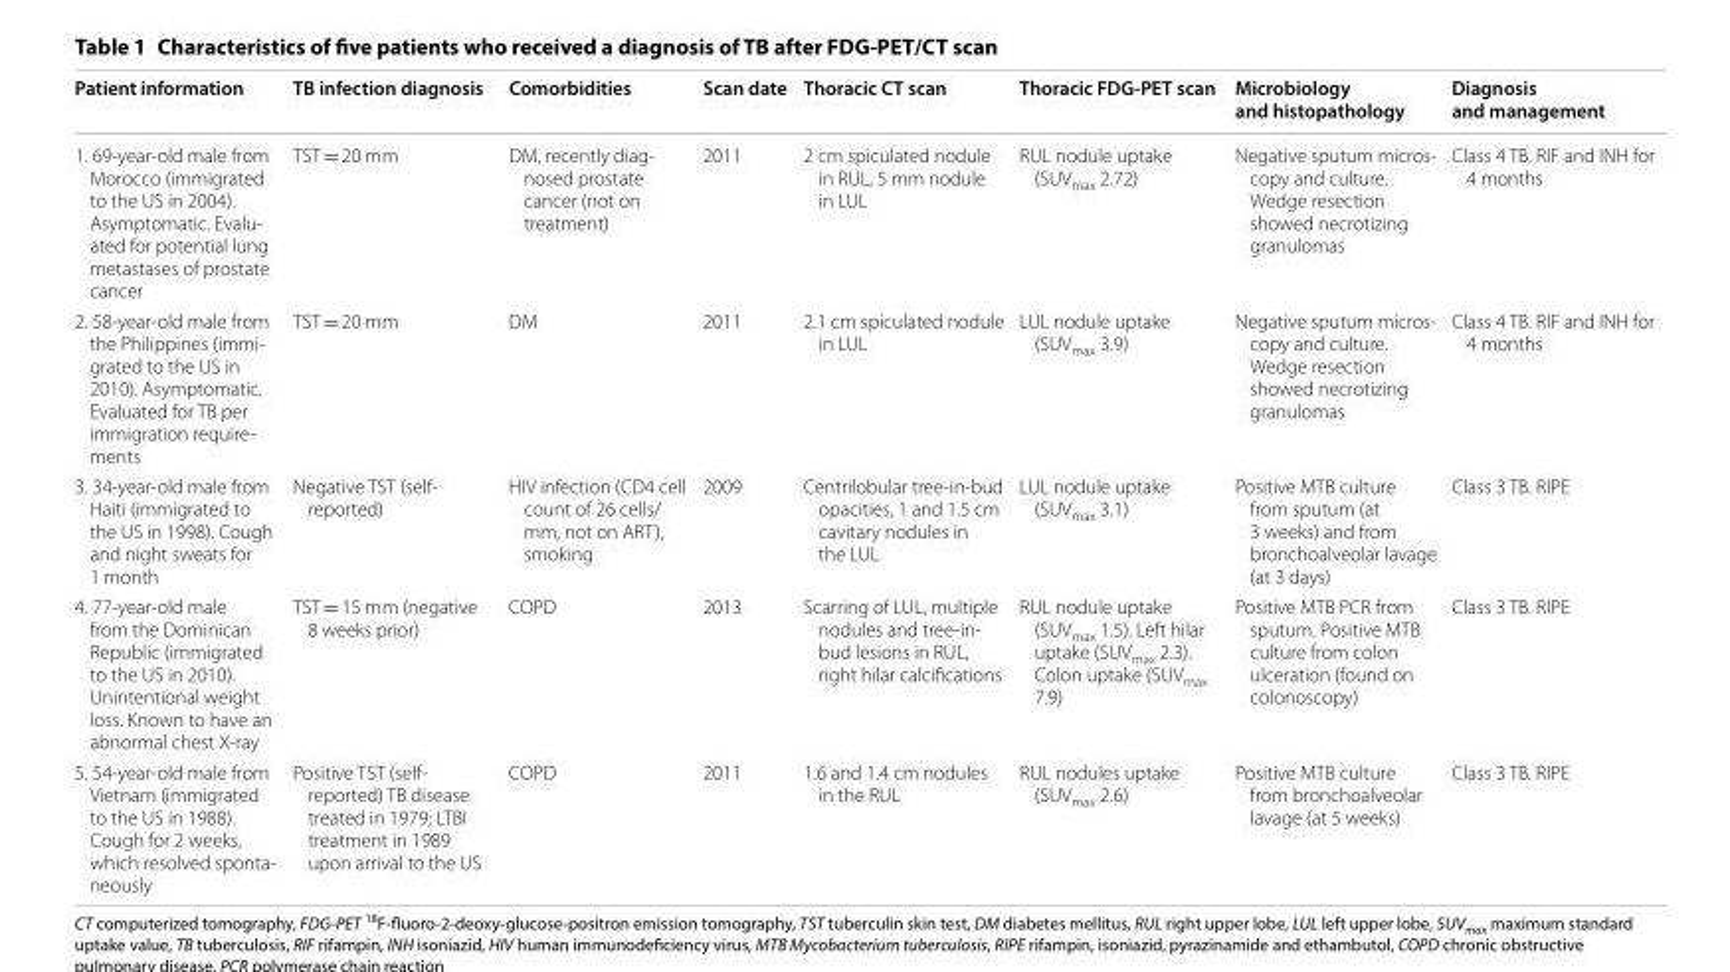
<table><thead><tr><td>Patient information</td><td>TB infection diagnosis</td><td>Comorbidities</td><td>Scan date</td><td>Thoracic CT scan</td><td>Thoracic FDG-PET scan</td><td>Microbiology and histopathology</td><td>Diagnosis and management</td></tr></thead><tbody><tr><td>1. 69‑year‑old male from Morocco (immigrated to the US in 2004). Asymptomatic. Evalu‑ ated for potential lung metastases of prostate cancer</td><td>TST = 20 mm</td><td>DM, recently diag‑ nosed prostate cancer (not on treatment)</td><td>2011</td><td>2 cm spiculated nodule in RUL, 5 mm nodule in LUL</td><td>RUL nodule uptake (SUV<sub>max</sub> 2.72)</td><td>Negative sputum micros‑ copy and culture. Wedge resection showed necrotizing granulomas</td><td>Class 4 TB. RIF and INH for 4 months</td></tr><tr><td>2. 58‑year‑old male from the Philippines (immi‑ grated to the US in 2010). Asymptomatic. Evaluated for TB per immigration require‑ ments</td><td>TST = 20 mm</td><td>DM</td><td>2011</td><td>2.1 cm spiculated nodule in LUL</td><td>LUL nodule uptake (SUV<sub>max</sub> 3.9)</td><td>Negative sputum micros‑ copy and culture. Wedge resection showed necrotizing granulomas</td><td>Class 4 TB. RIF and INH for 4 months</td></tr><tr><td>3. 34‑year‑old male from Haiti (immigrated to the US in 1998). Cough and night sweats for 1 month</td><td>Negative TST (self‑ reported)</td><td>HIV infection (CD4 cell count of 26 cells/ mm, not on ART), smoking</td><td>2009</td><td>Centrilobular tree‑in‑bud opacities, 1 and 1.5 cm cavitary nodules in the LUL</td><td>LUL nodule uptake (SUV<sub>max</sub> 3.1)</td><td>Positive MTB culture from sputum (at 3 weeks) and from bronchoalveolar lavage (at 3 days)</td><td>Class 3 TB. RIPE</td></tr><tr><td>4. 77‑year‑old male from the Dominican Republic (immigrated to the US in 2010). Unintentional weight loss. Known to have an abnormal chest X‑ray</td><td>TST = 15 mm (negative 8 weeks prior)</td><td>COPD</td><td>2013</td><td>Scarring of LUL, multiple nodules and tree‑in‑ bud lesions in RUL, right hilar calcifications</td><td>RUL nodule uptake (SUV<sub>max</sub> 1.5). Left hilar uptake (SUV<sub>max</sub> 2.3). Colon uptake (SUV<sub>max</sub> 7.9)</td><td>Positive MTB PCR from sputum. Positive MTB culture from colon ulceration (found on colonoscopy)</td><td>Class 3 TB. RIPE</td></tr><tr><td>5. 54‑year‑old male from Vietnam (immigrated to the US in 1988). Cough for 2 weeks, which resolved sponta‑ neously</td><td>Positive TST (self‑ reported) TB disease treated in 1979; LTBI treatment in 1989 upon arrival to the US</td><td>COPD</td><td>2011</td><td>1.6 and 1.4 cm nodules in the RUL</td><td>RUL nodules uptake (SUV<sub>max</sub> 2.6)</td><td>Positive MTB culture from bronchoalveolar lavage (at 5 weeks)</td><td>Class 3 TB. RIPE</td></tr></tbody></table>